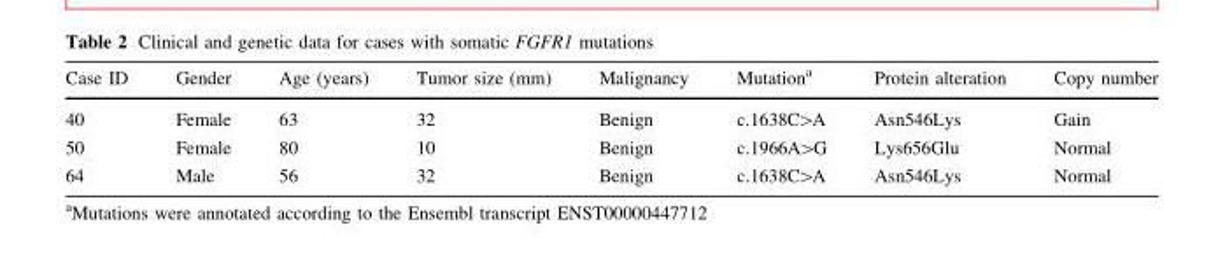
<table><thead><tr><td>Case ID</td><td>Gender</td><td>Age (years)</td><td>Tumor size (mm)</td><td>Malignancy</td><td>Mutation<sup>a</sup></td><td>Protein alteration</td><td>Copy number</td></tr></thead><tbody><tr><td>40</td><td>Female</td><td>63</td><td>32</td><td>Benign</td><td>c.1638C&gt;A</td><td>Asn546Lys</td><td>Gain</td></tr><tr><td>50</td><td>Female</td><td>80</td><td>10</td><td>Benign</td><td>c.1966A&gt;G</td><td>Lys656Glu</td><td>Normal</td></tr><tr><td>64</td><td>Male</td><td>56</td><td>32</td><td>Benign</td><td>c.1638C&gt;A</td><td>Asn546Lys</td><td>Normal</td></tr></tbody></table>